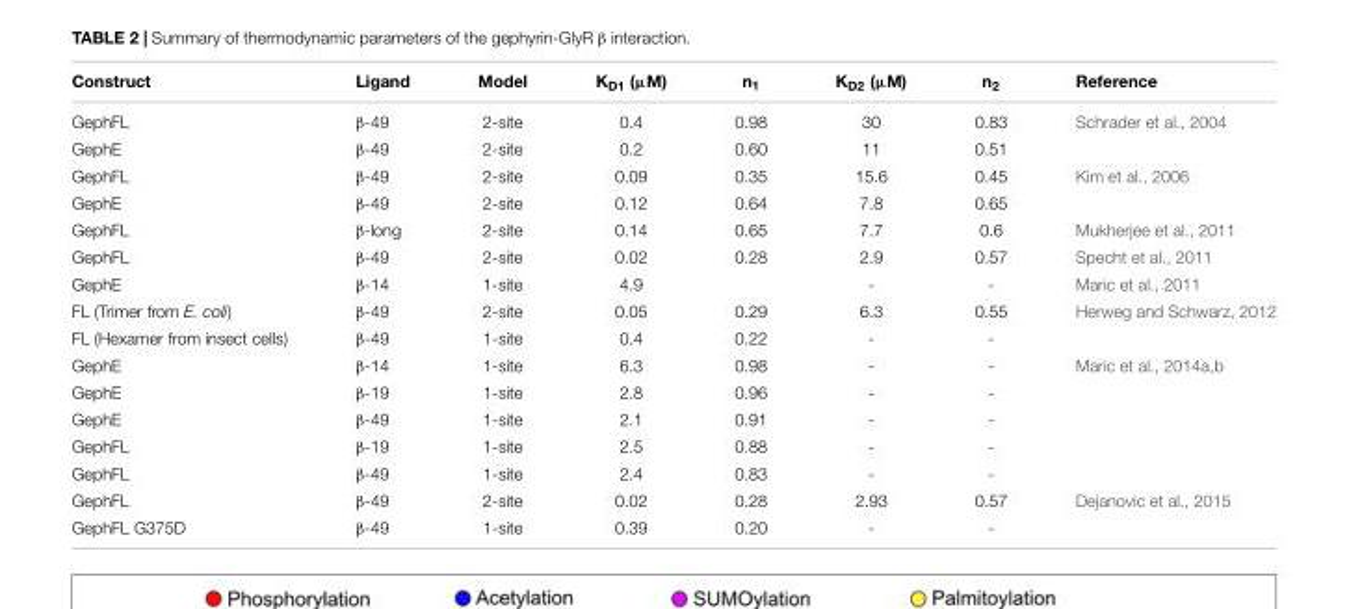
<table><thead><tr><td>Construct</td><td>Ligand</td><td>Model</td><td>K<sub>D1</sub> (µM)</td><td>n<sub>1</sub></td><td>K<sub>D2</sub> (µM)</td><td>n<sub>2</sub></td><td>Reference</td></tr></thead><tbody><tr><td>GephFL</td><td>β-49</td><td>2-site</td><td>0.4</td><td>0.98</td><td>30</td><td>0.83</td><td>Schrader et al., 2004</td></tr><tr><td>GephE</td><td>β-49</td><td>2-site</td><td>0.2</td><td>0.60</td><td>11</td><td>0.51</td><td></td></tr><tr><td>GephFL</td><td>β-49</td><td>2-site</td><td>0.09</td><td>0.35</td><td>15.6</td><td>0.45</td><td>Kim et al., 2006</td></tr><tr><td>GephE</td><td>β-49</td><td>2-site</td><td>0.12</td><td>0.64</td><td>7.8</td><td>0.65</td><td></td></tr><tr><td>GephFL</td><td>β-long</td><td>2-site</td><td>0.14</td><td>0.65</td><td>7.7</td><td>0.6</td><td>Mukherjee et al., 2011</td></tr><tr><td>GephFL</td><td>β-49</td><td>2-site</td><td>0.02</td><td>0.28</td><td>2.9</td><td>0.57</td><td>Specht et al., 2011</td></tr><tr><td>GephE</td><td>β-14</td><td>1-site</td><td>4.9</td><td></td><td>-</td><td>-</td><td>Maric et al., 2011</td></tr><tr><td>FL (Trimer from E. coli)</td><td>β-49</td><td>2-site</td><td>0.05</td><td>0.29</td><td>6.3</td><td>0.55</td><td>Herweg and Schwarz, 2012</td></tr><tr><td>FL (Hexamer from insect cells)</td><td>β-49</td><td>1-site</td><td>0.4</td><td>0.22</td><td>-</td><td>-</td><td></td></tr><tr><td>GephE</td><td>β-14</td><td>1-site</td><td>6.3</td><td>0.98</td><td>-</td><td>-</td><td>Maric et al., 2014a,b</td></tr><tr><td>GephE</td><td>β-19</td><td>1-site</td><td>2.8</td><td>0.96</td><td>-</td><td>-</td><td></td></tr><tr><td>GephE</td><td>β-49</td><td>1-site</td><td>2.1</td><td>0.91</td><td>-</td><td>-</td><td></td></tr><tr><td>GephFL</td><td>β-19</td><td>1-site</td><td>2.5</td><td>0.88</td><td>-</td><td>-</td><td></td></tr><tr><td>GephFL</td><td>β-49</td><td>1-site</td><td>2.4</td><td>0.83</td><td>-</td><td>-</td><td></td></tr><tr><td>GephFL</td><td>β-49</td><td>2-site</td><td>0.02</td><td>0.28</td><td>2.93</td><td>0.57</td><td>Dejanovic et al., 2015</td></tr><tr><td>GephFL G375D</td><td>β-49</td><td>1-site</td><td>0.39</td><td>0.20</td><td>-</td><td>-</td><td></td></tr></tbody></table>